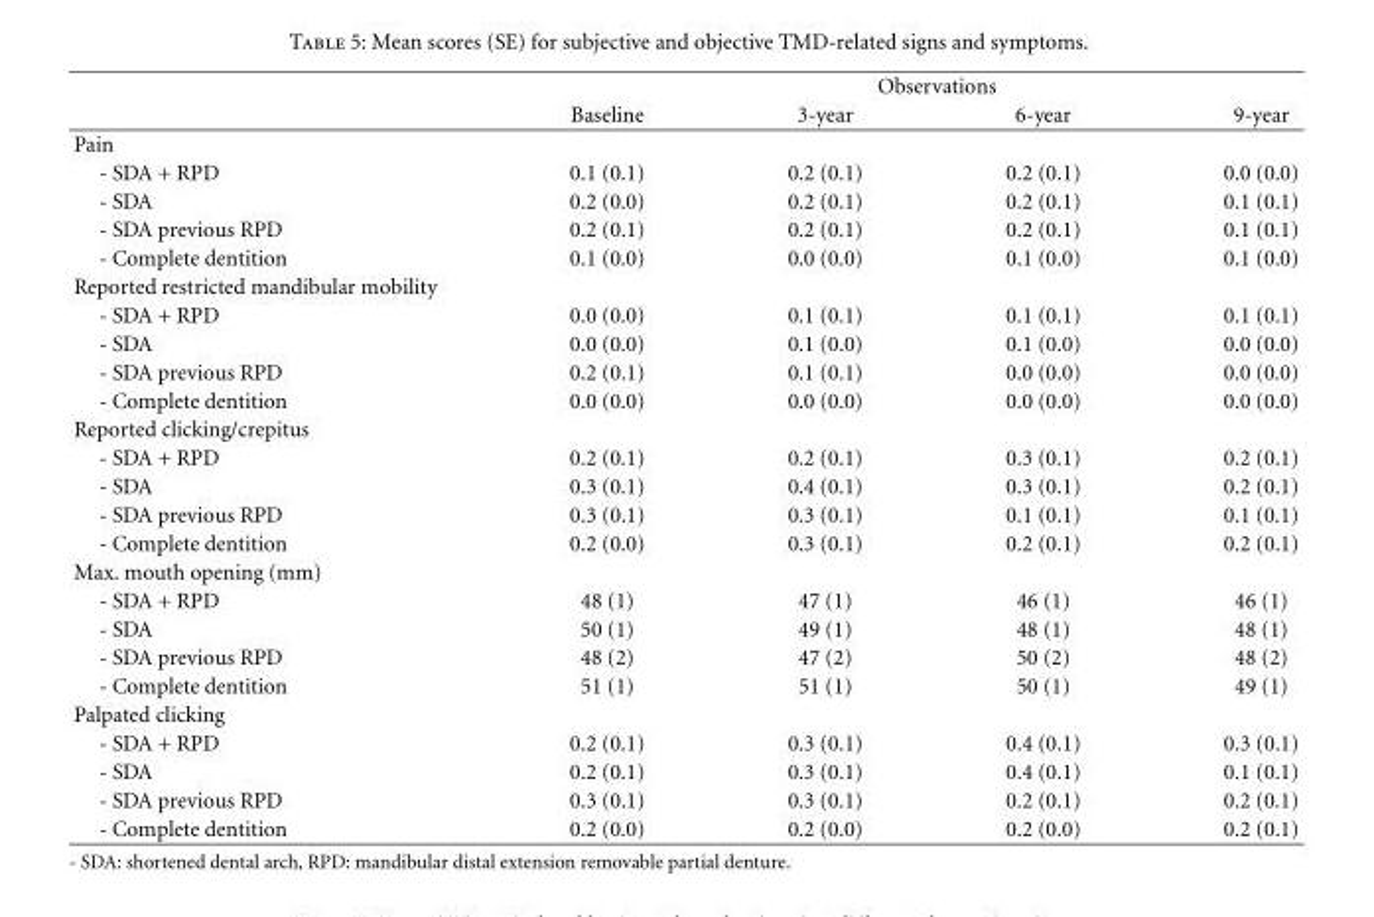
<table><thead><tr><td rowspan="2"></td><td colspan="4">Observations</td></tr><tr><td>Baseline</td><td>3-year</td><td>6-year</td><td>9-year</td></tr></thead><tbody><tr><td colspan="5">Pain</td></tr><tr><td>- SDA + RPD</td><td>0.1 (0.1)</td><td>0.2 (0.1)</td><td>0.2 (0.1)</td><td>0.0 (0.0)</td></tr><tr><td>- SDA</td><td>0.2 (0.0)</td><td>0.2 (0.1)</td><td>0.2 (0.1)</td><td>0.1 (0.1)</td></tr><tr><td>- SDA previous RPD</td><td>0.2 (0.1)</td><td>0.2 (0.1)</td><td>0.2 (0.1)</td><td>0.1 (0.1)</td></tr><tr><td>- Complete dentition</td><td>0.1 (0.0)</td><td>0.0 (0.0)</td><td>0.1 (0.0)</td><td>0.1 (0.0)</td></tr><tr><td colspan="5">Reported restricted mandibular mobility</td></tr><tr><td>- SDA + RPD</td><td>0.0 (0.0)</td><td>0.1 (0.1)</td><td>0.1 (0.1)</td><td>0.1 (0.1)</td></tr><tr><td>- SDA</td><td>0.0 (0.0)</td><td>0.1 (0.0)</td><td>0.1 (0.0)</td><td>0.0 (0.0)</td></tr><tr><td>- SDA previous RPD</td><td>0.2 (0.1)</td><td>0.1 (0.1)</td><td>0.0 (0.0)</td><td>0.0 (0.0)</td></tr><tr><td>- Complete dentition</td><td>0.0 (0.0)</td><td>0.0 (0.0)</td><td>0.0 (0.0)</td><td>0.0 (0.0)</td></tr><tr><td colspan="5">Reported clicking/crepitus</td></tr><tr><td>- SDA + RPD</td><td>0.2 (0.1)</td><td>0.2 (0.1)</td><td>0.3 (0.1)</td><td>0.2 (0.1)</td></tr><tr><td>- SDA</td><td>0.3 (0.1)</td><td>0.4 (0.1)</td><td>0.3 (0.1)</td><td>0.2 (0.1)</td></tr><tr><td>- SDA previous RPD</td><td>0.3 (0.1)</td><td>0.3 (0.1)</td><td>0.1 (0.1)</td><td>0.1 (0.1)</td></tr><tr><td>- Complete dentition</td><td>0.2 (0.0)</td><td>0.3 (0.1)</td><td>0.2 (0.1)</td><td>0.2 (0.1)</td></tr><tr><td colspan="5">Max. mouth opening (mm)</td></tr><tr><td>- SDA + RPD</td><td>48 (1)</td><td>47 (1)</td><td>46 (1)</td><td>46 (1)</td></tr><tr><td>- SDA</td><td>50 (1)</td><td>49 (1)</td><td>48 (1)</td><td>48 (1)</td></tr><tr><td>- SDA previous RPD</td><td>48 (2)</td><td>47 (2)</td><td>50 (2)</td><td>48 (2)</td></tr><tr><td>- Complete dentition</td><td>51 (1)</td><td>51 (1)</td><td>50 (1)</td><td>49 (1)</td></tr><tr><td colspan="5">Palpated clicking</td></tr><tr><td>- SDA + RPD</td><td>0.2 (0.1)</td><td>0.3 (0.1)</td><td>0.4 (0.1)</td><td>0.3 (0.1)</td></tr><tr><td>- SDA</td><td>0.2 (0.1)</td><td>0.3 (0.1)</td><td>0.4 (0.1)</td><td>0.1 (0.1)</td></tr><tr><td>- SDA previous RPD</td><td>0.3 (0.1)</td><td>0.3 (0.1)</td><td>0.2 (0.1)</td><td>0.2 (0.1)</td></tr><tr><td>- Complete dentition</td><td>0.2 (0.0)</td><td>0.2 (0.0)</td><td>0.2 (0.0)</td><td>0.2 (0.1)</td></tr></tbody></table>